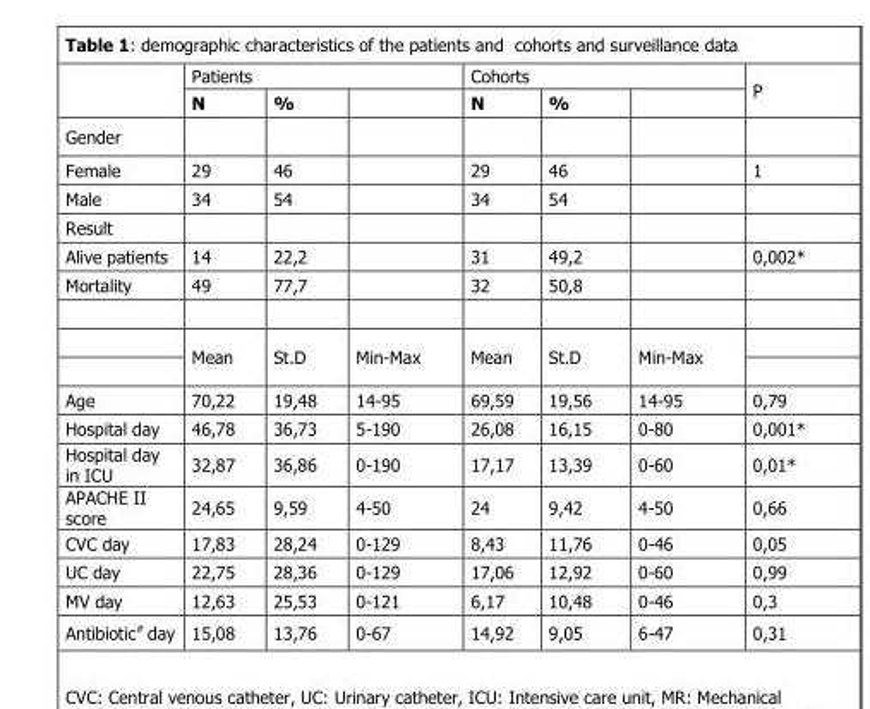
<table><thead><tr><td rowspan="2"></td><td colspan="3">Patients</td><td colspan="3">Cohorts</td><td rowspan="2">P</td></tr><tr><td>N</td><td>%</td><td></td><td>N</td><td>%</td><td></td></tr></thead><tbody><tr><td colspan="8">Gender</td></tr><tr><td>Female</td><td>29</td><td>46</td><td></td><td>29</td><td>46</td><td></td><td>1</td></tr><tr><td>Male</td><td>34</td><td>54</td><td></td><td>34</td><td>54</td><td></td><td></td></tr><tr><td colspan="8">Result</td></tr><tr><td>Alive patients</td><td>14</td><td>22,2</td><td></td><td>31</td><td>49,2</td><td></td><td>0,002*</td></tr><tr><td rowspan="2">Mortality</td><td>49</td><td>77,7</td><td></td><td>32</td><td>50,8</td><td></td><td></td></tr><tr><td>Mean</td><td>St.D</td><td>Min-Max</td><td>Mean</td><td>St.D</td><td>Min-Max</td><td></td></tr><tr><td>Age</td><td>70,22</td><td>19,48</td><td>14-95</td><td>69,59</td><td>19,56</td><td>14-95</td><td>0,79</td></tr><tr><td>Hospital day</td><td>46,78</td><td>36,73</td><td>5-190</td><td>26,08</td><td>16,15</td><td>0-80</td><td>0,001*</td></tr><tr><td>Hospital day in ICU</td><td>32,87</td><td>36,86</td><td>0-190</td><td>17,17</td><td>13,39</td><td>0-60</td><td>0,01*</td></tr><tr><td>APACHE II score</td><td>24,65</td><td>9,59</td><td>4-50</td><td>24</td><td>9,42</td><td>4-50</td><td>0,66</td></tr><tr><td>CVC day</td><td>17,83</td><td>28,24</td><td>0-129</td><td>8,43</td><td>11,76</td><td>0-46</td><td>0,05</td></tr><tr><td>UC day</td><td>22,75</td><td>28,36</td><td>0-129</td><td>17,06</td><td>12,92</td><td>0-60</td><td>0,99</td></tr><tr><td>MV day</td><td>12,63</td><td>25,53</td><td>0-121</td><td>6,17</td><td>10,48</td><td>0-46</td><td>0,3</td></tr><tr><td>Antibiotic# day</td><td>15,08</td><td>13,76</td><td>0-67</td><td>14,92</td><td>9,05</td><td>6-47</td><td>0,31</td></tr></tbody></table>